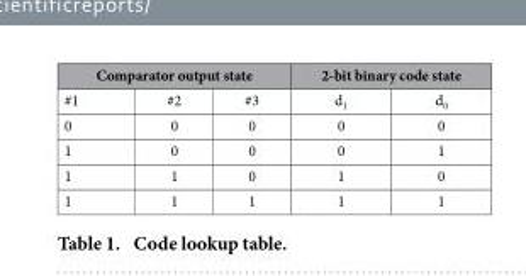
<table><thead><tr><td colspan="3">Comparator output state</td><td colspan="2">2-bit binary code state</td></tr><tr><td>#1</td><td>#2</td><td>#3</td><td>d<sub>1</sub></td><td>d<sub>0</sub></td></tr></thead><tbody><tr><td>0</td><td>0</td><td>0</td><td>0</td><td>0</td></tr><tr><td>1</td><td>0</td><td>0</td><td>0</td><td>1</td></tr><tr><td>1</td><td>1</td><td>0</td><td>1</td><td>0</td></tr><tr><td>1</td><td>1</td><td>1</td><td>1</td><td>1</td></tr></tbody></table>